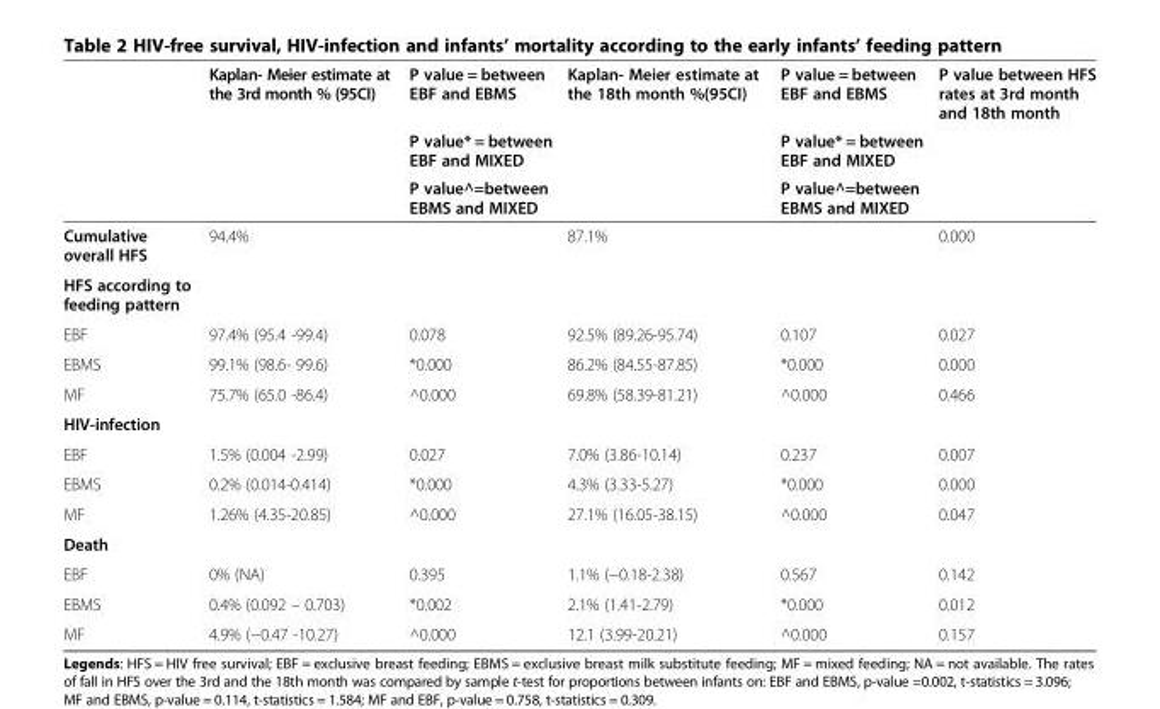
<table><thead><tr><td rowspan="3"></td><td rowspan="3">Kaplan- Meier estimate at the 3rd month % (95CI)</td><td rowspan="3">P value = between EBF and EBMS P value* = between EBF and MIXED P value^=between EBMS and MIXED</td><td rowspan="3">Kaplan- Meier estimate at the 18th month %(95CI)</td><td rowspan="3">P value = between EBF and EBMS P value* = between EBF and MIXED P value^=between EBMS and MIXED</td><td rowspan="3">P value between HFS rates at 3rd month and 18th month</td></tr><tr></tr><tr></tr></thead><tbody><tr><td>Cumulative overall HFS</td><td>94.4%</td><td></td><td>87.1%</td><td></td><td>0.000</td></tr><tr><td colspan="6">HFS according to feeding pattern</td></tr><tr><td>EBF</td><td>97.4% (95.4 -99.4)</td><td>0.078</td><td>92.5% (89.26-95.74)</td><td>0.107</td><td>0.027</td></tr><tr><td>EBMS</td><td>99.1% (98.6- 99.6)</td><td>*0.000</td><td>86.2% (84.55-87.85)</td><td>*0.000</td><td>0.000</td></tr><tr><td>MF</td><td>75.7% (65.0 -86.4)</td><td>^0.000</td><td>69.8% (58.39-81.21)</td><td>^0.000</td><td>0.466</td></tr><tr><td colspan="6">HIV-infection</td></tr><tr><td>EBF</td><td>1.5% (0.004 -2.99)</td><td>0.027</td><td>7.0% (3.86-10.14)</td><td>0.237</td><td>0.007</td></tr><tr><td>EBMS</td><td>0.2% (0.014-0.414)</td><td>*0.000</td><td>4.3% (3.33-5.27)</td><td>*0.000</td><td>0.000</td></tr><tr><td>MF</td><td>1.26% (4.35-20.85)</td><td>^0.000</td><td>27.1% (16.05-38.15)</td><td>^0.000</td><td>0.047</td></tr><tr><td colspan="6">Death</td></tr><tr><td>EBF</td><td>0% (NA)</td><td>0.395</td><td>1.1% (−0.18-2.38)</td><td>0.567</td><td>0.142</td></tr><tr><td>EBMS</td><td>0.4% (0.092 – 0.703)</td><td>*0.002</td><td>2.1% (1.41-2.79)</td><td>*0.000</td><td>0.012</td></tr><tr><td>MF</td><td>4.9% (−0.47 -10.27)</td><td>^0.000</td><td>12.1 (3.99-20.21)</td><td>^0.000</td><td>0.157</td></tr></tbody></table>